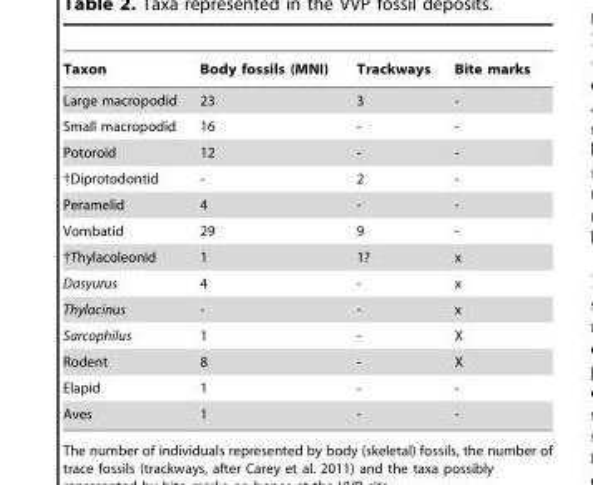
<table><thead><tr><td>Taxon</td><td>Body fossils (MNI)</td><td>Trackways</td><td>Bite marks</td></tr></thead><tbody><tr><td>Large macropodid</td><td>23</td><td>3</td><td>-</td></tr><tr><td>Small macropodid</td><td>16</td><td>-</td><td>-</td></tr><tr><td>Potoroid</td><td>12</td><td>-</td><td>-</td></tr><tr><td>†Diprotodontid</td><td>-</td><td>2</td><td>-</td></tr><tr><td>Peramelid</td><td>4</td><td>-</td><td>-</td></tr><tr><td>Vombatid</td><td>29</td><td>9</td><td>-</td></tr><tr><td>†Thylacoleonid</td><td>1</td><td>1?</td><td>x</td></tr><tr><td>Dasyurus</td><td>4</td><td>-</td><td>x</td></tr><tr><td>Thylacinus</td><td>-</td><td>-</td><td>x</td></tr><tr><td>Sarcophilus</td><td>1</td><td>-</td><td>X</td></tr><tr><td>Rodent</td><td>8</td><td>-</td><td>X</td></tr><tr><td>Elapid</td><td>1</td><td>-</td><td>-</td></tr><tr><td>Aves</td><td>1</td><td>-</td><td>-</td></tr></tbody></table>